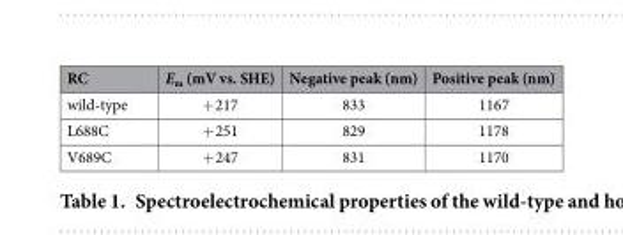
<table><thead><tr><td>RC</td><td>E<sub>m</sub> (mV vs. SHE)</td><td>Negative peak (nm)</td><td>Positive peak (nm)</td></tr></thead><tbody><tr><td>wild-type</td><td>+ 217</td><td>833</td><td>1167</td></tr><tr><td>L688C</td><td>+ 251</td><td>829</td><td>1178</td></tr><tr><td>V689C</td><td>+ 247</td><td>831</td><td>1170</td></tr></tbody></table>